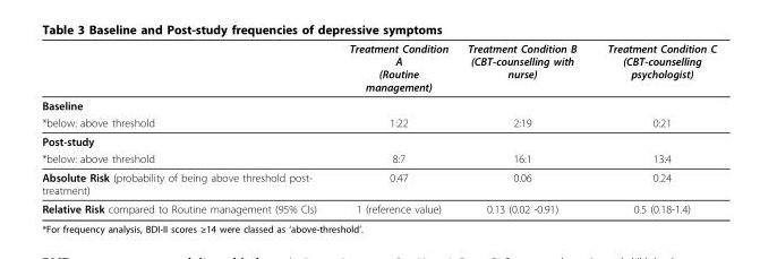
<table><thead><tr><td></td><td>Treatment Condition A (Routine management)</td><td>Treatment Condition B (CBT-counselling with nurse)</td><td>Treatment Condition C (CBT-counselling psychologist)</td></tr></thead><tbody><tr><td colspan="4">Baseline</td></tr><tr><td>*below: above threshold</td><td>1:22</td><td>2:19</td><td>0:21</td></tr><tr><td colspan="4">Post-study</td></tr><tr><td>*below: above threshold</td><td>8:7</td><td>16:1</td><td>13:4</td></tr><tr><td>Absolute Risk (probability of being above threshold post- treatment)</td><td>0.47</td><td>0.06</td><td>0.24</td></tr><tr><td>Relative Risk compared to Routine management (95% CIs)</td><td>1 (reference value)</td><td>0.13 (0.02 -0.91)</td><td>0.5 (0.18-1.4)</td></tr></tbody></table>